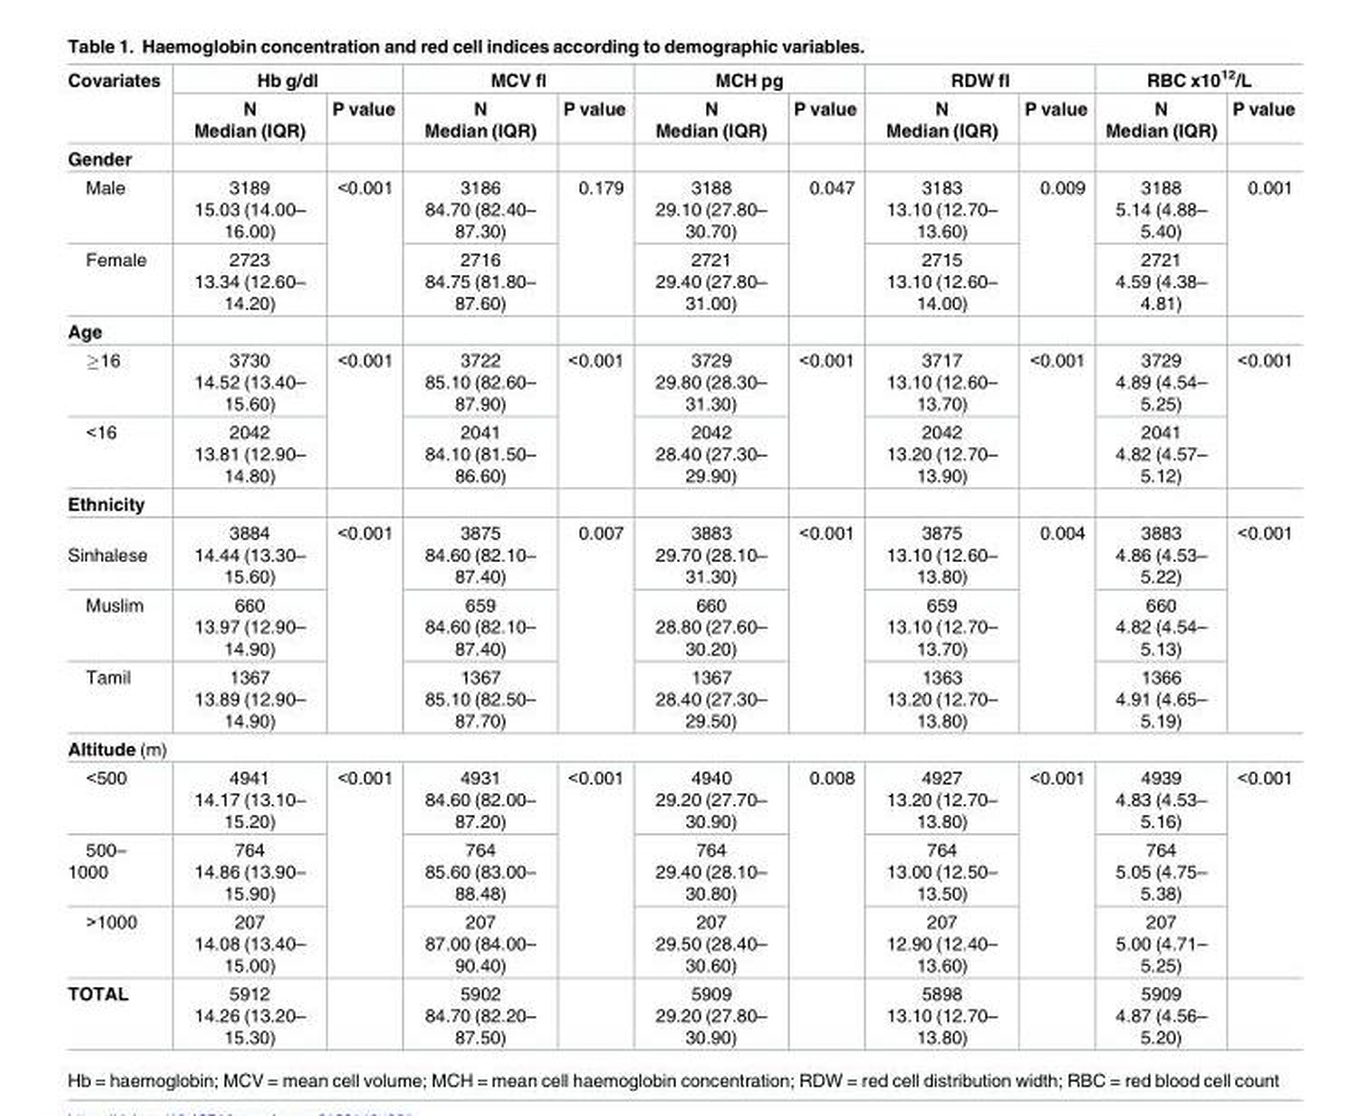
<table><thead><tr><td rowspan="2">Covariates</td><td colspan="2">Hb g/dl</td><td colspan="2">MCV fl</td><td colspan="2">MCH pg</td><td colspan="2">RDW fl</td><td colspan="2">RBC x10<sup>12</sup>/L</td></tr><tr><td>N Median (IQR)</td><td>P value</td><td>N Median (IQR)</td><td>P value</td><td>N Median (IQR)</td><td>P value</td><td>N Median (IQR)</td><td>P value</td><td>N Median (IQR)</td><td>P value</td></tr></thead><tbody><tr><td colspan="11">Gender</td></tr><tr><td>Male</td><td>3189 15.03 (14.00– 16.00)</td><td rowspan="2">&lt;0.001</td><td>3186 84.70 (82.40– 87.30)</td><td rowspan="2">0.179</td><td>3188 29.10 (27.80– 30.70)</td><td rowspan="2">0.047</td><td>3183 13.10 (12.70– 13.60)</td><td rowspan="2">0.009</td><td>3188 5.14 (4.88– 5.40)</td><td rowspan="2">0.001</td></tr><tr><td>Female</td><td>2723 13.34 (12.60– 14.20)</td><td>2716 84.75 (81.80– 87.60)</td><td>2721 29.40 (27.80– 31.00)</td><td>2715 13.10 (12.60– 14.00)</td><td>2721 4.59 (4.38– 4.81)</td></tr><tr><td colspan="11">Age</td></tr><tr><td>≥16</td><td>3730 14.52 (13.40– 15.60)</td><td rowspan="2">&lt;0.001</td><td>3722 85.10 (82.60– 87.90)</td><td rowspan="2">&lt;0.001</td><td>3729 29.80 (28.30– 31.30)</td><td rowspan="2">&lt;0.001</td><td>3717 13.10 (12.60– 13.70)</td><td rowspan="2">&lt;0.001</td><td>3729 4.89 (4.54– 5.25)</td><td rowspan="2">&lt;0.001</td></tr><tr><td>&lt;16</td><td>2042 13.81 (12.90– 14.80)</td><td>2041 84.10 (81.50– 86.60)</td><td>2042 28.40 (27.30– 29.90)</td><td>2042 13.20 (12.70– 13.90)</td><td>2041 4.82 (4.57– 5.12)</td></tr><tr><td colspan="11">Ethnicity</td></tr><tr><td>Sinhalese</td><td>3884 14.44 (13.30– 15.60)</td><td rowspan="3">&lt;0.001</td><td>3875 84.60 (82.10– 87.40)</td><td rowspan="3">0.007</td><td>3883 29.70 (28.10– 31.30)</td><td rowspan="3">&lt;0.001</td><td>3875 13.10 (12.60– 13.80)</td><td rowspan="3">0.004</td><td>3883 4.86 (4.53– 5.22)</td><td rowspan="3">&lt;0.001</td></tr><tr><td>Muslim</td><td>660 13.97 (12.90– 14.90)</td><td>659 84.60 (82.10– 87.40)</td><td>660 28.80 (27.60– 30.20)</td><td>659 13.10 (12.70– 13.70)</td><td>660 4.82 (4.54– 5.13)</td></tr><tr><td>Tamil</td><td>1367 13.89 (12.90– 14.90)</td><td>1367 85.10 (82.50– 87.70)</td><td>1367 28.40 (27.30– 29.50)</td><td>1363 13.20 (12.70– 13.80)</td><td>1366 4.91 (4.65– 5.19)</td></tr><tr><td colspan="11">Altitude (m)</td></tr><tr><td>&lt;500</td><td>4941 14.17 (13.10– 15.20)</td><td rowspan="3">&lt;0.001</td><td>4931 84.60 (82.00– 87.20)</td><td rowspan="3">&lt;0.001</td><td>4940 29.20 (27.70– 30.90)</td><td rowspan="3">0.008</td><td>4927 13.20 (12.70– 13.80)</td><td rowspan="3">&lt;0.001</td><td>4939 4.83 (4.53– 5.16)</td><td rowspan="3">&lt;0.001</td></tr><tr><td>500– 1000</td><td>764 14.86 (13.90– 15.90)</td><td>764 85.60 (83.00– 88.48)</td><td>764 29.40 (28.10– 30.80)</td><td>764 13.00 (12.50– 13.50)</td><td>764 5.05 (4.75– 5.38)</td></tr><tr><td>&gt;1000</td><td>207 14.08 (13.40– 15.00)</td><td>207 87.00 (84.00– 90.40)</td><td>207 29.50 (28.40– 30.60)</td><td>207 12.90 (12.40– 13.60)</td><td>207 5.00 (4.71– 5.25)</td></tr><tr><td>TOTAL</td><td>5912 14.26 (13.20– 15.30)</td><td></td><td>5902 84.70 (82.20– 87.50)</td><td></td><td>5909 29.20 (27.80– 30.90)</td><td></td><td>5898 13.10 (12.70– 13.80)</td><td></td><td>5909 4.87 (4.56– 5.20)</td><td></td></tr></tbody></table>